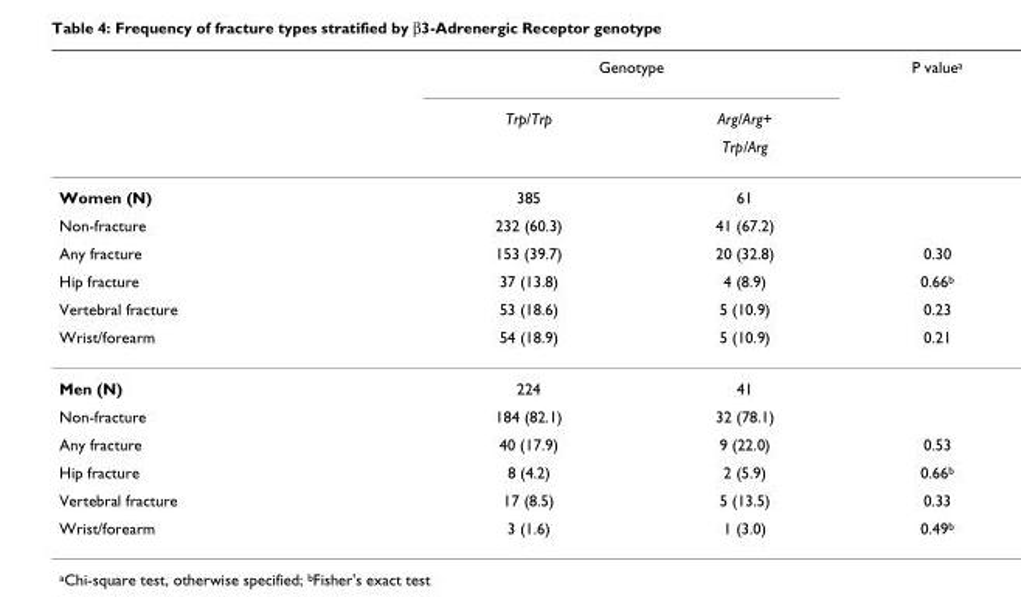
<table><thead><tr><td rowspan="3"></td><td colspan="2">Genotype</td><td rowspan="3">P value<sup>a</sup></td></tr><tr><td rowspan="2">Trp/Trp</td><td rowspan="2">Arg/Arg+ Trp/Arg</td></tr><tr></tr></thead><tbody><tr><td>Women (N)</td><td>385</td><td>61</td><td></td></tr><tr><td>Non-fracture</td><td>232 (60.3)</td><td>41 (67.2)</td><td></td></tr><tr><td>Any fracture</td><td>153 (39.7)</td><td>20 (32.8)</td><td>0.30</td></tr><tr><td>Hip fracture</td><td>37 (13.8)</td><td>4 (8.9)</td><td>0.66<sup>b</sup></td></tr><tr><td>Vertebral fracture</td><td>53 (18.6)</td><td>5 (10.9)</td><td>0.23</td></tr><tr><td>Wrist/forearm</td><td>54 (18.9)</td><td>5 (10.9)</td><td>0.21</td></tr><tr><td>Men (N)</td><td>224</td><td>41</td><td></td></tr><tr><td>Non-fracture</td><td>184 (82.1)</td><td>32 (78.1)</td><td></td></tr><tr><td>Any fracture</td><td>40 (17.9)</td><td>9 (22.0)</td><td>0.53</td></tr><tr><td>Hip fracture</td><td>8 (4.2)</td><td>2 (5.9)</td><td>0.66<sup>b</sup></td></tr><tr><td>Vertebral fracture</td><td>17 (8.5)</td><td>5 (13.5)</td><td>0.33</td></tr><tr><td>Wrist/forearm</td><td>3 (1.6)</td><td>1 (3.0)</td><td>0.49<sup>b</sup></td></tr></tbody></table>